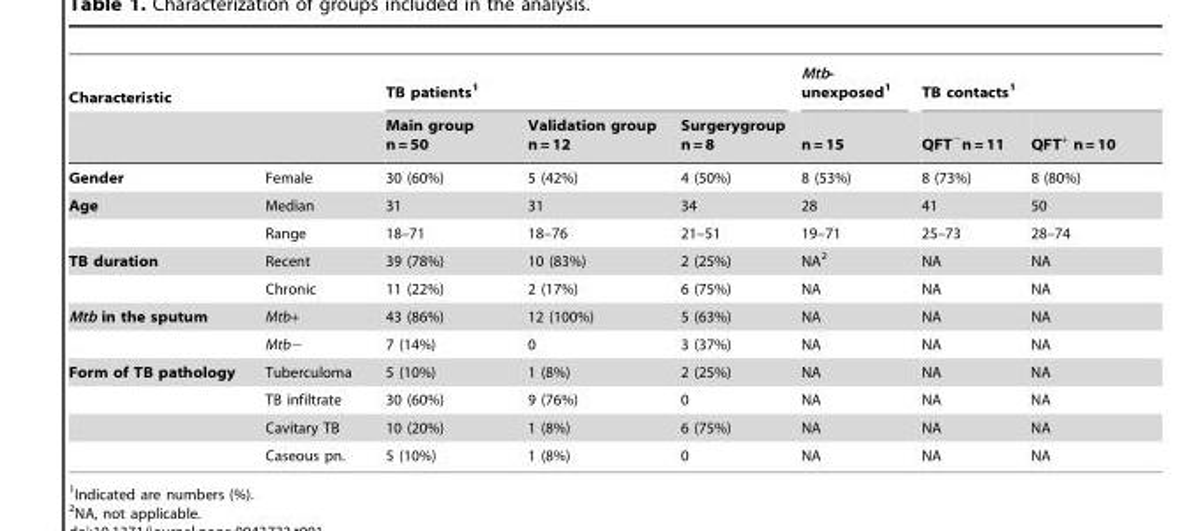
<table><thead><tr><td colspan="2">Characteristic</td><td colspan="3">TB patients<sup>1</sup></td><td rowspan="2">Mtb- unexposed<sup>1</sup> n = 15</td><td colspan="2">TB contacts<sup>1</sup></td></tr><tr><td></td><td></td><td>Main group n = 50</td><td>Validation group n = 12</td><td>Surgerygroup n = 8</td><td>QFT<sup>−</sup>n = 11</td><td>QFT<sup>+</sup> n = 10</td></tr></thead><tbody><tr><td>Gender</td><td>Female</td><td>30 (60%)</td><td>5 (42%)</td><td>4 (50%)</td><td>8 (53%)</td><td>8 (73%)</td><td>8 (80%)</td></tr><tr><td rowspan="2">Age</td><td>Median</td><td>31</td><td>31</td><td>34</td><td>28</td><td>41</td><td>50</td></tr><tr><td>Range</td><td>18–71</td><td>18–76</td><td>21–51</td><td>19–71</td><td>25–73</td><td>28–74</td></tr><tr><td rowspan="2">TB duration</td><td>Recent</td><td>39 (78%)</td><td>10 (83%)</td><td>2 (25%)</td><td>NA<sup>2</sup></td><td>NA</td><td>NA</td></tr><tr><td>Chronic</td><td>11 (22%)</td><td>2 (17%)</td><td>6 (75%)</td><td>NA</td><td>NA</td><td>NA</td></tr><tr><td rowspan="2">Mtb in the sputum</td><td>Mtb+</td><td>43 (86%)</td><td>12 (100%)</td><td>5 (63%)</td><td>NA</td><td>NA</td><td>NA</td></tr><tr><td>Mtb−</td><td>7 (14%)</td><td>0</td><td>3 (37%)</td><td>NA</td><td>NA</td><td>NA</td></tr><tr><td rowspan="4">Form of TB pathology</td><td>Tuberculoma</td><td>5 (10%)</td><td>1 (8%)</td><td>2 (25%)</td><td>NA</td><td>NA</td><td>NA</td></tr><tr><td>TB infiltrate</td><td>30 (60%)</td><td>9 (76%)</td><td>0</td><td>NA</td><td>NA</td><td>NA</td></tr><tr><td>Cavitary TB</td><td>10 (20%)</td><td>1 (8%)</td><td>6 (75%)</td><td>NA</td><td>NA</td><td>NA</td></tr><tr><td>Caseous pn.</td><td>5 (10%)</td><td>1 (8%)</td><td>0</td><td>NA</td><td>NA</td><td>NA</td></tr></tbody></table>